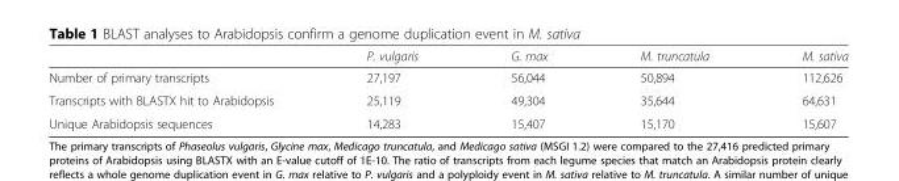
<table><thead><tr><td></td><td>P. vulgaris</td><td>G. max</td><td>M. truncatula</td><td>M. sativa</td></tr></thead><tbody><tr><td>Number of primary transcripts</td><td>27,197</td><td>56,044</td><td>50,894</td><td>112,626</td></tr><tr><td>Transcripts with BLASTX hit to Arabidopsis</td><td>25,119</td><td>49,304</td><td>35,644</td><td>64,631</td></tr><tr><td>Unique Arabidopsis sequences</td><td>14,283</td><td>15,407</td><td>15,170</td><td>15,607</td></tr></tbody></table>